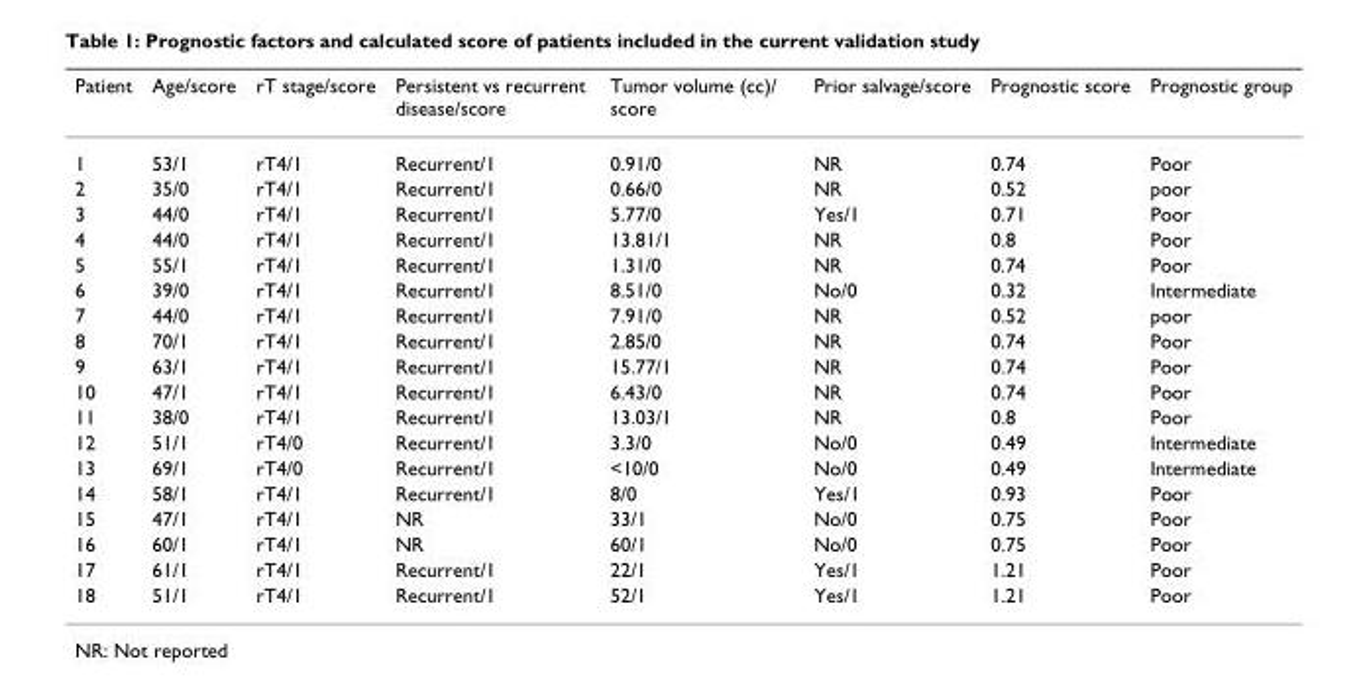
<table><thead><tr><td>Patient</td><td>Age/score</td><td>rT stage/score</td><td>Persistent vs recurrent disease/score</td><td>Tumor volume (cc)/ score</td><td>Prior salvage/score</td><td>Prognostic score</td><td>Prognostic group</td></tr></thead><tbody><tr><td>1</td><td>53/1</td><td>rT4/1</td><td>Recurrent/1</td><td>0.91/0</td><td>NR</td><td>0.74</td><td>Poor</td></tr><tr><td>2</td><td>35/0</td><td>rT4/1</td><td>Recurrent/1</td><td>0.66/0</td><td>NR</td><td>0.52</td><td>poor</td></tr><tr><td>3</td><td>44/0</td><td>rT4/1</td><td>Recurrent/1</td><td>5.77/0</td><td>Yes/1</td><td>0.71</td><td>Poor</td></tr><tr><td>4</td><td>44/0</td><td>rT4/1</td><td>Recurrent/1</td><td>13.81/1</td><td>NR</td><td>0.8</td><td>Poor</td></tr><tr><td>5</td><td>55/1</td><td>rT4/1</td><td>Recurrent/1</td><td>1.31/0</td><td>NR</td><td>0.74</td><td>Poor</td></tr><tr><td>6</td><td>39/0</td><td>rT4/1</td><td>Recurrent/1</td><td>8.51/0</td><td>No/0</td><td>0.32</td><td>Intermediate</td></tr><tr><td>7</td><td>44/0</td><td>rT4/1</td><td>Recurrent/1</td><td>7.91/0</td><td>NR</td><td>0.52</td><td>poor</td></tr><tr><td>8</td><td>70/1</td><td>rT4/1</td><td>Recurrent/1</td><td>2.85/0</td><td>NR</td><td>0.74</td><td>Poor</td></tr><tr><td>9</td><td>63/1</td><td>rT4/1</td><td>Recurrent/1</td><td>15.77/1</td><td>NR</td><td>0.74</td><td>Poor</td></tr><tr><td>10</td><td>47/1</td><td>rT4/1</td><td>Recurrent/1</td><td>6.43/0</td><td>NR</td><td>0.74</td><td>Poor</td></tr><tr><td>11</td><td>38/0</td><td>rT4/1</td><td>Recurrent/1</td><td>13.03/1</td><td>NR</td><td>0.8</td><td>Poor</td></tr><tr><td>12</td><td>51/1</td><td>rT4/0</td><td>Recurrent/1</td><td>3.3/0</td><td>No/0</td><td>0.49</td><td>Intermediate</td></tr><tr><td>13</td><td>69/1</td><td>rT4/0</td><td>Recurrent/1</td><td>&lt;10/0</td><td>No/0</td><td>0.49</td><td>Intermediate</td></tr><tr><td>14</td><td>58/1</td><td>rT4/1</td><td>Recurrent/1</td><td>8/0</td><td>Yes/1</td><td>0.93</td><td>Poor</td></tr><tr><td>15</td><td>47/1</td><td>rT4/1</td><td>NR</td><td>33/1</td><td>No/0</td><td>0.75</td><td>Poor</td></tr><tr><td>16</td><td>60/1</td><td>rT4/1</td><td>NR</td><td>60/1</td><td>No/0</td><td>0.75</td><td>Poor</td></tr><tr><td>17</td><td>61/1</td><td>rT4/1</td><td>Recurrent/1</td><td>22/1</td><td>Yes/1</td><td>1.21</td><td>Poor</td></tr><tr><td>18</td><td>51/1</td><td>rT4/1</td><td>Recurrent/1</td><td>52/1</td><td>Yes/1</td><td>1.21</td><td>Poor</td></tr></tbody></table>